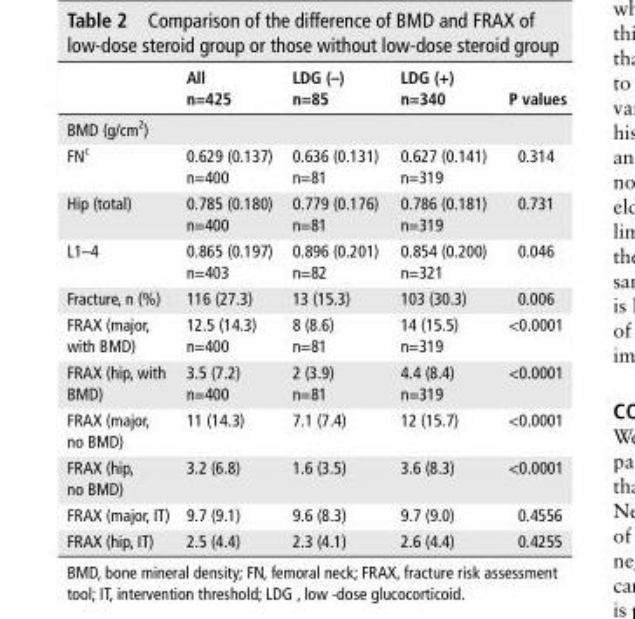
<table><thead><tr><td></td><td>All n=425</td><td>LdG (–) n=85</td><td>LdG (+) n=340</td><td>P values</td></tr></thead><tbody><tr><td colspan="5">BMD (g/cm<sup>2</sup>)</td></tr><tr><td>FN<sup>c</sup></td><td>0.629 (0.137) n=400</td><td>0.636 (0.131) n=81</td><td>0.627 (0.141) n=319</td><td>0.314</td></tr><tr><td>Hip (total)</td><td>0.785 (0.180) n=400</td><td>0.779 (0.176) n=81</td><td>0.786 (0.181) n=319</td><td>0.731</td></tr><tr><td>L1–4</td><td>0.865 (0.197) n=403</td><td>0.896 (0.201) n=82</td><td>0.854 (0.200) n=321</td><td>0.046</td></tr><tr><td>Fracture, n (%)</td><td>116 (27.3)</td><td>13 (15.3)</td><td>103 (30.3)</td><td>0.006</td></tr><tr><td>FRAX (major, with BMD)</td><td>12.5 (14.3) n=400</td><td>8 (8.6) n=81</td><td>14 (15.5) n=319</td><td>&lt;0.0001</td></tr><tr><td>FRAX (hip, with BMD)</td><td>3.5 (7.2) n=400</td><td>2 (3.9) n=81</td><td>4.4 (8.4) n=319</td><td>&lt;0.0001</td></tr><tr><td>FRAX (major, no BMD)</td><td>11 (14.3)</td><td>7.1 (7.4)</td><td>12 (15.7)</td><td>&lt;0.0001</td></tr><tr><td>FRAX (hip, no BMD)</td><td>3.2 (6.8)</td><td>1.6 (3.5)</td><td>3.6 (8.3)</td><td>&lt;0.0001</td></tr><tr><td>FRAX (major, IT)</td><td>9.7 (9.1)</td><td>9.6 (8.3)</td><td>9.7 (9.0)</td><td>0.4556</td></tr><tr><td>FRAX (hip, IT)</td><td>2.5 (4.4)</td><td>2.3 (4.1)</td><td>2.6 (4.4)</td><td>0.4255</td></tr></tbody></table>